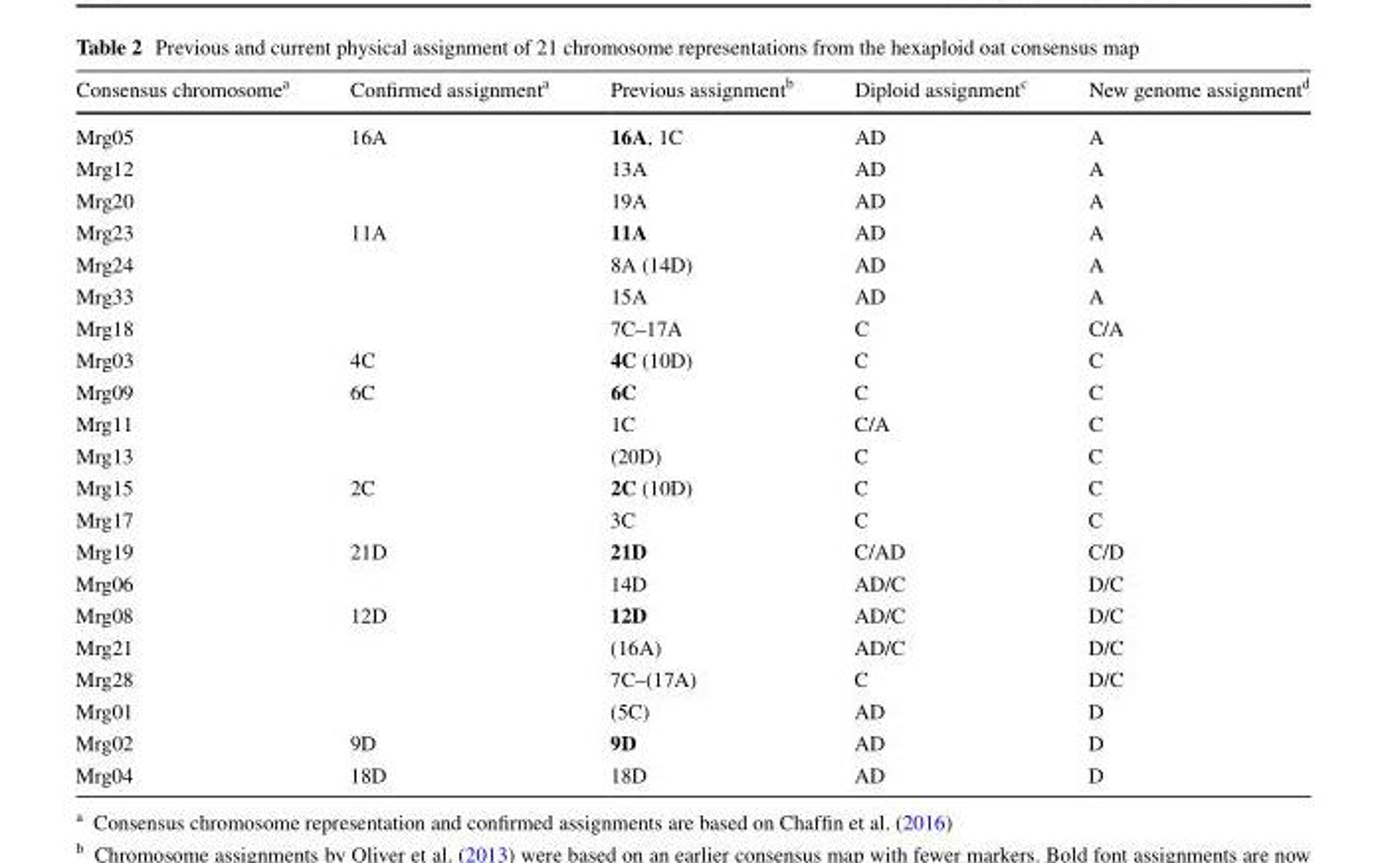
<table><thead><tr><td>Consensus chromosome<sup>a</sup></td><td>Confirmed assignment<sup>a</sup></td><td>Previous assignment<sup>b</sup></td><td>Diploid assignment<sup>c</sup></td><td>New genome assignment<sup>d</sup></td></tr></thead><tbody><tr><td>Mrg05</td><td>16A</td><td>16A, 1C</td><td>AD</td><td>A</td></tr><tr><td>Mrg12</td><td></td><td>13A</td><td>AD</td><td>A</td></tr><tr><td>Mrg20</td><td></td><td>19A</td><td>AD</td><td>A</td></tr><tr><td>Mrg23</td><td>11A</td><td>11A</td><td>AD</td><td>A</td></tr><tr><td>Mrg24</td><td></td><td>8A (14D)</td><td>AD</td><td>A</td></tr><tr><td>Mrg33</td><td></td><td>15A</td><td>AD</td><td>A</td></tr><tr><td>Mrg18</td><td></td><td>7C–17A</td><td>C</td><td>C/A</td></tr><tr><td>Mrg03</td><td>4C</td><td>4C (10D)</td><td>C</td><td>C</td></tr><tr><td>Mrg09</td><td>6C</td><td>6C</td><td>C</td><td>C</td></tr><tr><td>Mrg11</td><td></td><td>1C</td><td>C/A</td><td>C</td></tr><tr><td>Mrg13</td><td></td><td>(20D)</td><td>C</td><td>C</td></tr><tr><td>Mrg15</td><td>2C</td><td>2C (10D)</td><td>C</td><td>C</td></tr><tr><td>Mrg17</td><td></td><td>3C</td><td>C</td><td>C</td></tr><tr><td>Mrg19</td><td>21D</td><td>21D</td><td>C/AD</td><td>C/D</td></tr><tr><td>Mrg06</td><td></td><td>14D</td><td>AD/C</td><td>D/C</td></tr><tr><td>Mrg08</td><td>12D</td><td>12D</td><td>AD/C</td><td>D/C</td></tr><tr><td>Mrg21</td><td></td><td>(16A)</td><td>AD/C</td><td>D/C</td></tr><tr><td>Mrg28</td><td></td><td>7C–(17A)</td><td>C</td><td>D/C</td></tr><tr><td>Mrg01</td><td></td><td>(5C)</td><td>AD</td><td>D</td></tr><tr><td>Mrg02</td><td>9D</td><td>9D</td><td>AD</td><td>D</td></tr><tr><td>Mrg04</td><td>18D</td><td>18D</td><td>AD</td><td>D</td></tr></tbody></table>